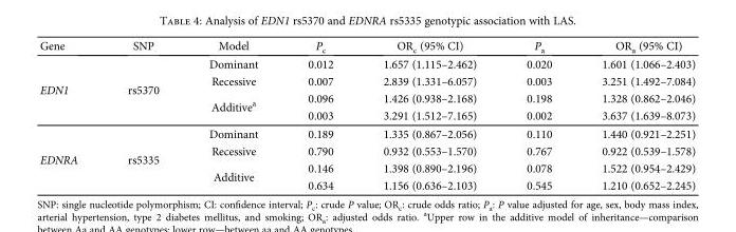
<table><thead><tr><td>Gene</td><td>SNP</td><td>Model</td><td>P<sub>c</sub></td><td>OR<sub>c</sub> (95% CI)</td><td>P<sub>a</sub></td><td>OR<sub>a</sub> (95% CI)</td></tr></thead><tbody><tr><td rowspan="4">EDN1</td><td rowspan="4">rs5370</td><td>Dominant</td><td>0.012</td><td>1.657 (1.115–2.462)</td><td>0.020</td><td>1.601 (1.066–2.403)</td></tr><tr><td>Recessive</td><td>0.007</td><td>2.839 (1.331–6.057)</td><td>0.003</td><td>3.251 (1.492–7.084)</td></tr><tr><td rowspan="2">Additive<sup>a</sup></td><td>0.096</td><td>1.426 (0.938–2.168)</td><td>0.198</td><td>1.328 (0.862–2.046)</td></tr><tr><td>0.003</td><td>3.291 (1.512–7.165)</td><td>0.002</td><td>3.637 (1.639–8.073)</td></tr><tr><td rowspan="4">EDNRA</td><td rowspan="4">rs5335</td><td>Dominant</td><td>0.189</td><td>1.335 (0.867–2.056)</td><td>0.110</td><td>1.440 (0.921–2.251)</td></tr><tr><td>Recessive</td><td>0.790</td><td>0.932 (0.553–1.570)</td><td>0.767</td><td>0.922 (0.539–1.578)</td></tr><tr><td rowspan="2">Additive</td><td>0.146</td><td>1.398 (0.890–2.196)</td><td>0.078</td><td>1.522 (0.954–2.429)</td></tr><tr><td>0.634</td><td>1.156 (0.636–2.103)</td><td>0.545</td><td>1.210 (0.652–2.245)</td></tr></tbody></table>